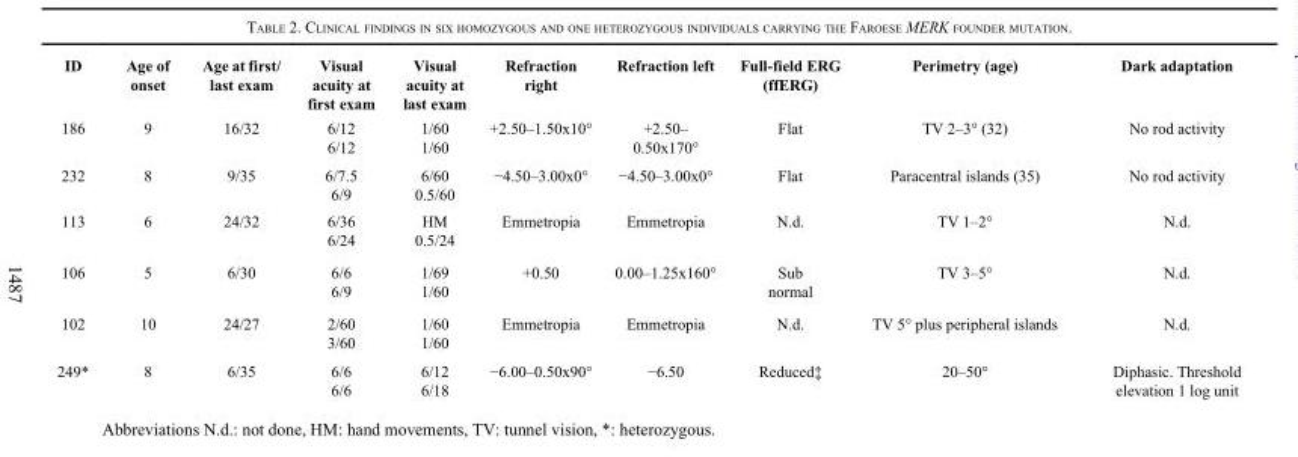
<table><thead><tr><td>ID</td><td>Age of onset</td><td>Age at first/ last exam</td><td>Visual acuity at first exam</td><td>Visual acuity at last exam</td><td>Refraction right</td><td>Refraction left</td><td>Full-field ERG (ffERG)</td><td>Perimetry (age)</td><td>Dark adaptation</td></tr></thead><tbody><tr><td>186</td><td>9</td><td>16/32</td><td>6/12 6/12</td><td>1/60 1/60</td><td>+2.50–1.50x10°</td><td>+2.50– 0.50x170°</td><td>Flat</td><td>TV 2–3° (32)</td><td>No rod activity</td></tr><tr><td>232</td><td>8</td><td>9/35</td><td>6/7.5 6/9</td><td>6/60 0.5/60</td><td>−4.50–3.00x0°</td><td>−4.50–3.00x0°</td><td>Flat</td><td>Paracentral islands (35)</td><td>No rod activity</td></tr><tr><td>113</td><td>6</td><td>24/32</td><td>6/36 6/24</td><td>HM 0.5/24</td><td>Emmetropia</td><td>Emmetropia</td><td>N.d.</td><td>TV 1–2°</td><td>N.d.</td></tr><tr><td>106</td><td>5</td><td>6/30</td><td>6/6 6/9</td><td>1/69 1/60</td><td>+0.50</td><td>0.00–1.25x160°</td><td>Sub normal</td><td>TV 3–5°</td><td>N.d.</td></tr><tr><td>102</td><td>10</td><td>24/27</td><td>2/60 3/60</td><td>1/60 1/60</td><td>Emmetropia</td><td>Emmetropia</td><td>N.d.</td><td>TV 5° plus peripheral islands</td><td>N.d.</td></tr><tr><td>249*</td><td>8</td><td>6/35</td><td>6/6 6/6</td><td>6/12 6/18</td><td>−6.00–0.50x90°</td><td>−6.50</td><td>Reduced‡</td><td>20–50°</td><td>Diphasic. Threshold elevation 1 log unit</td></tr></tbody></table>